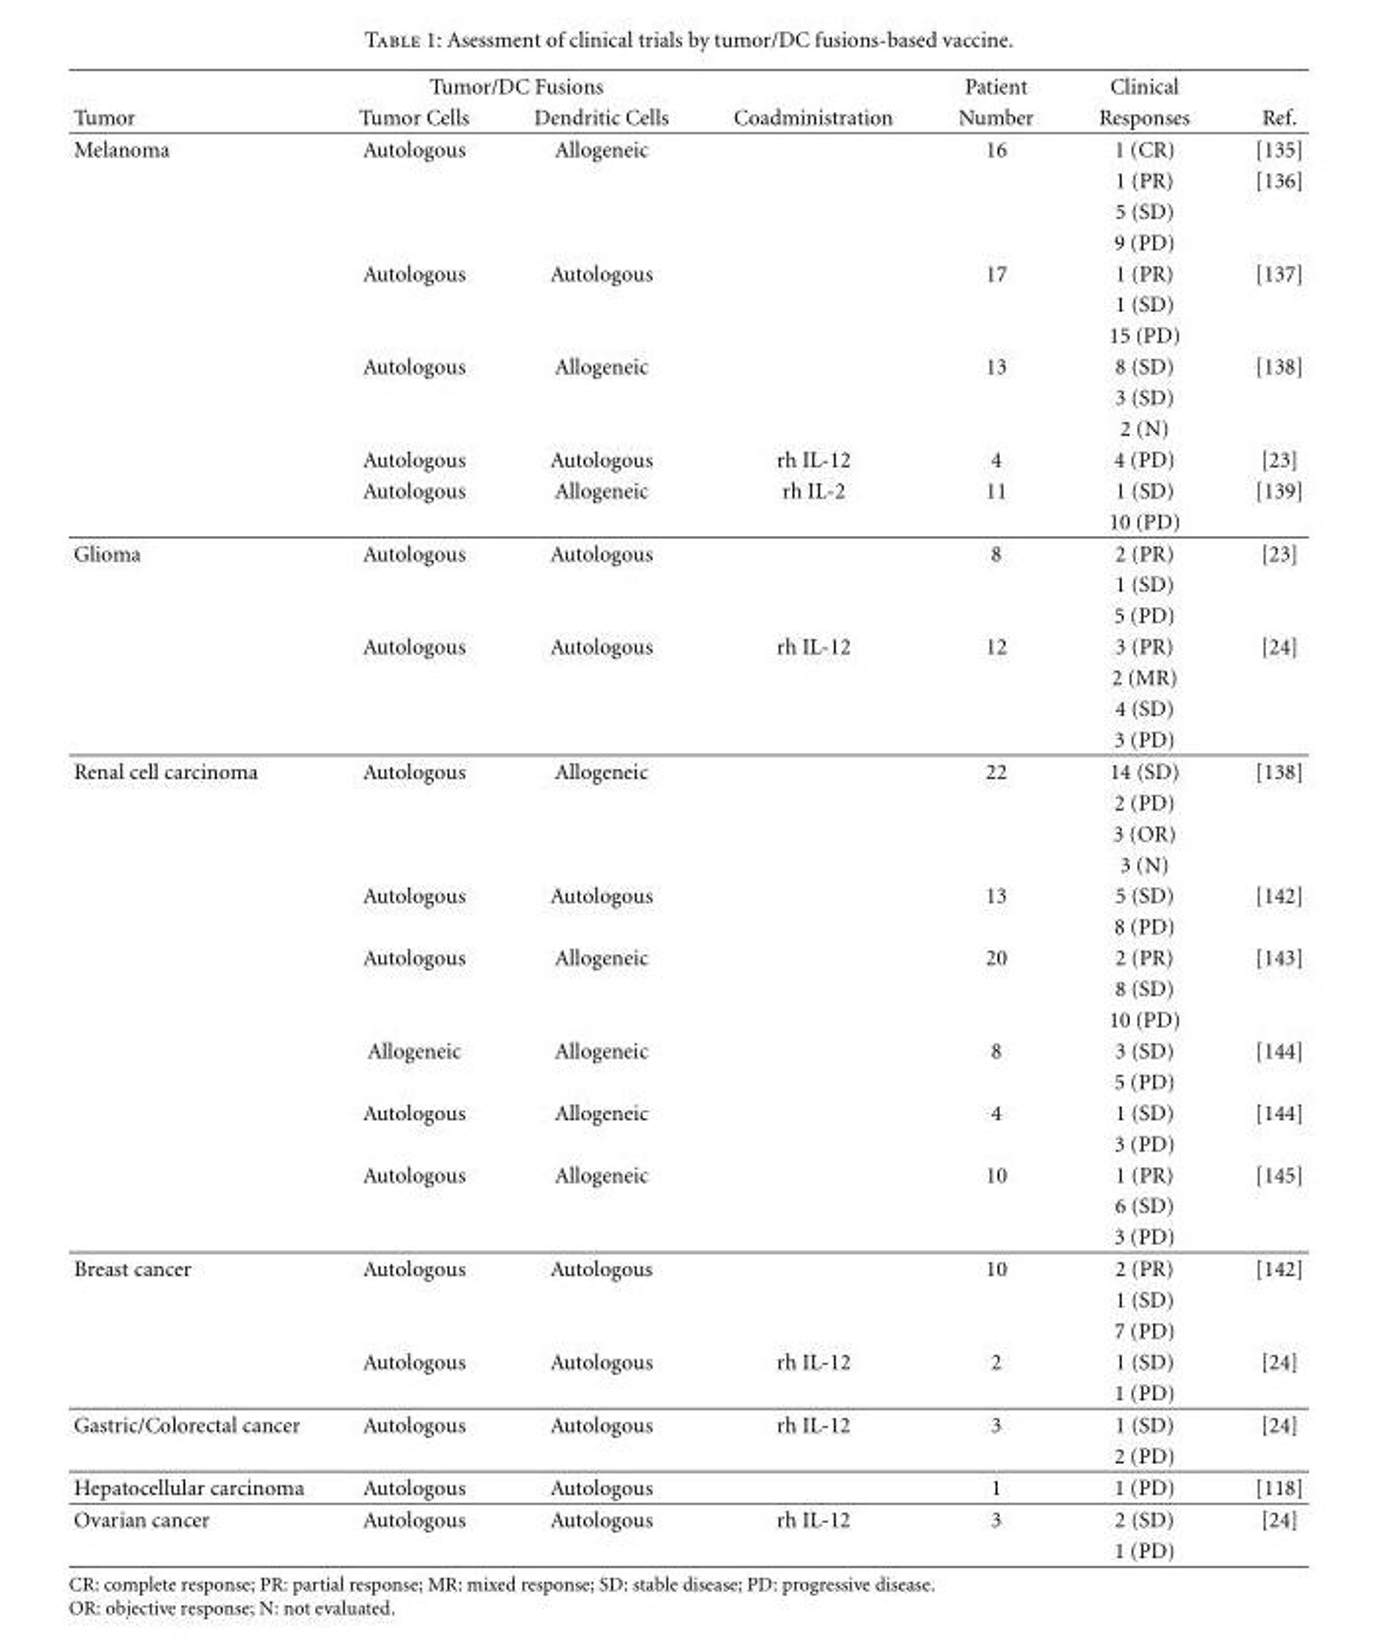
<table><thead><tr><td rowspan="2">Tumor</td><td colspan="2">Tumor/DC Fusions</td><td rowspan="2">Coadministration</td><td rowspan="2">Patient Number</td><td rowspan="2">Clinical Responses</td><td rowspan="2">Ref.</td></tr><tr><td>Tumor Cells</td><td>Dendritic Cells</td></tr></thead><tbody><tr><td rowspan="13">Melanoma</td><td>Autologous</td><td>Allogeneic</td><td></td><td>16</td><td>1 (CR)</td><td>[135]</td></tr><tr><td></td><td></td><td></td><td></td><td>1 (PR)</td><td>[136]</td></tr><tr><td></td><td></td><td></td><td></td><td>5 (SD)</td><td></td></tr><tr><td></td><td></td><td></td><td></td><td>9 (PD)</td><td></td></tr><tr><td>Autologous</td><td>Autologous</td><td></td><td>17</td><td>1 (PR)</td><td>[137]</td></tr><tr><td></td><td></td><td></td><td></td><td>1 (SD)</td><td></td></tr><tr><td></td><td></td><td></td><td></td><td>15 (PD)</td><td></td></tr><tr><td>Autologous</td><td>Allogeneic</td><td></td><td>13</td><td>8 (SD)</td><td>[138]</td></tr><tr><td></td><td></td><td></td><td></td><td>3 (SD)</td><td></td></tr><tr><td></td><td></td><td></td><td></td><td>2 (N)</td><td></td></tr><tr><td>Autologous</td><td>Autologous</td><td>rh IL-12</td><td>4</td><td>4 (PD)</td><td>[23]</td></tr><tr><td>Autologous</td><td>Allogeneic</td><td>rh IL-2</td><td>11</td><td>1 (SD)</td><td>[139]</td></tr><tr><td></td><td></td><td></td><td></td><td>10 (PD)</td><td></td></tr><tr><td rowspan="7">Glioma</td><td>Autologous</td><td>Autologous</td><td></td><td>8</td><td>2 (PR)</td><td>[23]</td></tr><tr><td></td><td></td><td></td><td></td><td>1 (SD)</td><td></td></tr><tr><td></td><td></td><td></td><td></td><td>5 (PD)</td><td></td></tr><tr><td>Autologous</td><td>Autologous</td><td>rh IL-12</td><td>12</td><td>3 (PR)</td><td>[24]</td></tr><tr><td></td><td></td><td></td><td></td><td>2 (MR)</td><td></td></tr><tr><td></td><td></td><td></td><td></td><td>4 (SD)</td><td></td></tr><tr><td></td><td></td><td></td><td></td><td>3 (PD)</td><td></td></tr><tr><td rowspan="16">Renal cell carcinoma</td><td>Autologous</td><td>Allogeneic</td><td></td><td>22</td><td>14 (SD)</td><td>[138]</td></tr><tr><td></td><td></td><td></td><td></td><td>2 (PD)</td><td></td></tr><tr><td></td><td></td><td></td><td></td><td>3 (OR)</td><td></td></tr><tr><td></td><td></td><td></td><td></td><td>3 (N)</td><td></td></tr><tr><td>Autologous</td><td>Autologous</td><td></td><td>13</td><td>5 (SD)</td><td>[142]</td></tr><tr><td></td><td></td><td></td><td></td><td>8 (PD)</td><td></td></tr><tr><td>Autologous</td><td>Allogeneic</td><td></td><td>20</td><td>2 (PR)</td><td>[143]</td></tr><tr><td></td><td></td><td></td><td></td><td>8 (SD)</td><td></td></tr><tr><td></td><td></td><td></td><td></td><td>10 (PD)</td><td></td></tr><tr><td>Allogeneic</td><td>Allogeneic</td><td></td><td>8</td><td>3 (SD)</td><td>[144]</td></tr><tr><td></td><td></td><td></td><td></td><td>5 (PD)</td><td></td></tr><tr><td>Autologous</td><td>Allogeneic</td><td></td><td>4</td><td>1 (SD)</td><td>[144]</td></tr><tr><td></td><td></td><td></td><td></td><td>3 (PD)</td><td></td></tr><tr><td>Autologous</td><td>Allogeneic</td><td></td><td>10</td><td>1 (PR)</td><td>[145]</td></tr><tr><td></td><td></td><td></td><td></td><td>6 (SD)</td><td></td></tr><tr><td></td><td></td><td></td><td></td><td>3 (PD)</td><td></td></tr><tr><td rowspan="5">Breast cancer</td><td>Autologous</td><td>Autologous</td><td></td><td>10</td><td>2 (PR)</td><td>[142]</td></tr><tr><td></td><td></td><td></td><td></td><td>1 (SD)</td><td></td></tr><tr><td></td><td></td><td></td><td></td><td>7 (PD)</td><td></td></tr><tr><td>Autologous</td><td>Autologous</td><td>rh IL-12</td><td>2</td><td>1 (SD)</td><td>[24]</td></tr><tr><td></td><td></td><td></td><td></td><td>1 (PD)</td><td></td></tr><tr><td rowspan="2">Gastric/Colorectal cancer</td><td>Autologous</td><td>Autologous</td><td>rh IL-12</td><td>3</td><td>1 (SD)</td><td>[24]</td></tr><tr><td></td><td></td><td></td><td></td><td>2 (PD)</td><td></td></tr><tr><td>Hepatocellular carcinoma</td><td>Autologous</td><td>Autologous</td><td></td><td>1</td><td>1 (PD)</td><td>[118]</td></tr><tr><td rowspan="2">Ovarian cancer</td><td>Autologous</td><td>Autologous</td><td>rh IL-12</td><td>3</td><td>2 (SD)</td><td>[24]</td></tr><tr><td></td><td></td><td></td><td></td><td>1 (PD)</td><td></td></tr></tbody></table>